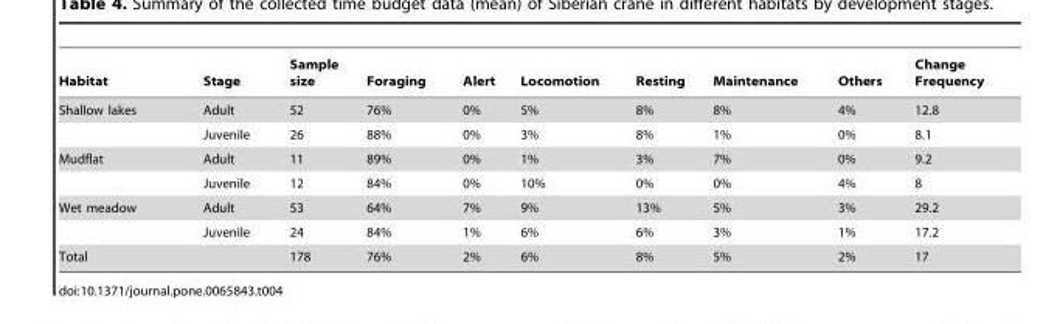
<table><thead><tr><td>Habitat</td><td>Stage</td><td>Sample size</td><td>Foraging</td><td>Alert</td><td>Locomotion</td><td>Resting</td><td>Maintenance</td><td>Others</td><td>Change Frequency</td></tr></thead><tbody><tr><td rowspan="2">Shallow lakes</td><td>Adult</td><td>52</td><td>76%</td><td>0%</td><td>5%</td><td>8%</td><td>8%</td><td>4%</td><td>12.8</td></tr><tr><td>Juvenile</td><td>26</td><td>88%</td><td>0%</td><td>3%</td><td>8%</td><td>1%</td><td>0%</td><td>8.1</td></tr><tr><td rowspan="2">Mudflat</td><td>Adult</td><td>11</td><td>89%</td><td>0%</td><td>1%</td><td>3%</td><td>7%</td><td>0%</td><td>9.2</td></tr><tr><td>Juvenile</td><td>12</td><td>84%</td><td>0%</td><td>10%</td><td>0%</td><td>0%</td><td>4%</td><td>8</td></tr><tr><td rowspan="2">Wet meadow</td><td>Adult</td><td>53</td><td>64%</td><td>7%</td><td>9%</td><td>13%</td><td>5%</td><td>3%</td><td>29.2</td></tr><tr><td>Juvenile</td><td>24</td><td>84%</td><td>1%</td><td>6%</td><td>6%</td><td>3%</td><td>1%</td><td>17.2</td></tr><tr><td>Total</td><td></td><td>178</td><td>76%</td><td>2%</td><td>6%</td><td>8%</td><td>5%</td><td>2%</td><td>17</td></tr></tbody></table>